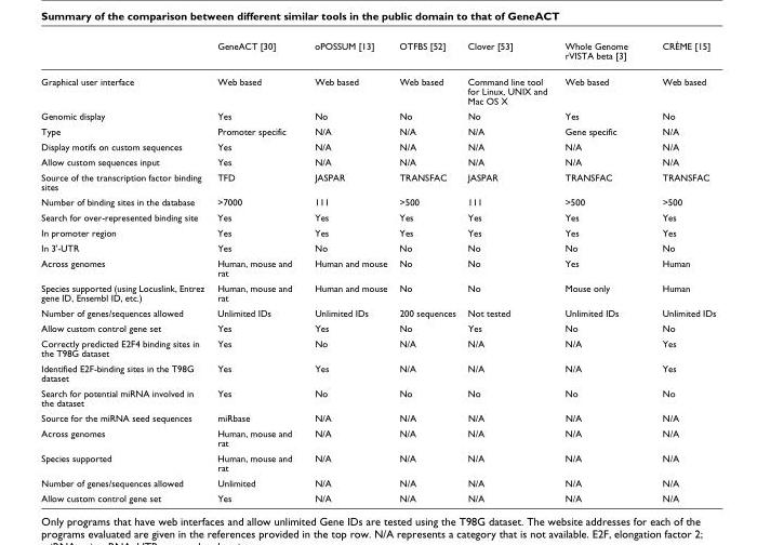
<table><thead><tr><td></td><td>GeneACT [30]</td><td>oPOSSUM [13]</td><td>OTFBS [52]</td><td>Clover [53]</td><td>Whole Genome rVISTA beta [3]</td><td>CRÈME [15]</td></tr></thead><tbody><tr><td>Graphical user interface</td><td>Web based</td><td>Web based</td><td>Web based</td><td>Command line tool for Linux, UNIX and Mac OS X</td><td>Web based</td><td>Web based</td></tr><tr><td>Genomic display</td><td>Yes</td><td>No</td><td>No</td><td>No</td><td>Yes</td><td>No</td></tr><tr><td>Type</td><td>Promoter specific</td><td>N/A</td><td>N/A</td><td>N/A</td><td>Gene specific</td><td>N/A</td></tr><tr><td>Display motifs on custom sequences</td><td>Yes</td><td>N/A</td><td>N/A</td><td>N/A</td><td>N/A</td><td>N/A</td></tr><tr><td>Allow custom sequences input</td><td>Yes</td><td>N/A</td><td>N/A</td><td>N/A</td><td>N/A</td><td>N/A</td></tr><tr><td>Source of the transcription factor binding sites</td><td>TFD</td><td>JASPAR</td><td>TRANSFAC</td><td>JASPAR</td><td>TRANSFAC</td><td>TRANSFAC</td></tr><tr><td>Number of binding sites in the database</td><td>&gt;7000</td><td>111</td><td>&gt;500</td><td>111</td><td>&gt;500</td><td>&gt;500</td></tr><tr><td>Search for over-represented binding site</td><td>Yes</td><td>Yes</td><td>Yes</td><td>Yes</td><td>Yes</td><td>Yes</td></tr><tr><td>In promoter region</td><td>Yes</td><td>Yes</td><td>Yes</td><td>Yes</td><td>Yes</td><td>Yes</td></tr><tr><td>In 3&#x27;-UTR</td><td>Yes</td><td>No</td><td>No</td><td>No</td><td>No</td><td>No</td></tr><tr><td>Across genomes</td><td>Human, mouse and rat</td><td>Human and mouse</td><td>No</td><td>No</td><td>Yes</td><td>Human</td></tr><tr><td>Species supported (using Locuslink, Entrez gene ID, Ensembl ID, etc.)</td><td>Human, mouse and rat</td><td>Human and mouse</td><td>No</td><td>No</td><td>Mouse only</td><td>Human</td></tr><tr><td>Number of genes/sequences allowed</td><td>Unlimited IDs</td><td>Unlimited IDs</td><td>200 sequences</td><td>Not tested</td><td>Unlimited IDs</td><td>Unlimited IDs</td></tr><tr><td>Allow custom control gene set</td><td>Yes</td><td>Yes</td><td>No</td><td>Yes</td><td>No</td><td>No</td></tr><tr><td>Correctly predicted E2F4 binding sites in the T98G dataset</td><td>Yes</td><td>No</td><td>N/A</td><td>N/A</td><td>N/A</td><td>Yes</td></tr><tr><td>Identified E2F-binding sites in the T98G dataset</td><td>Yes</td><td>Yes</td><td>N/A</td><td>N/A</td><td>N/A</td><td>Yes</td></tr><tr><td>Search for potential miRNA involved in the dataset</td><td>Yes</td><td>No</td><td>No</td><td>No</td><td>No</td><td>No</td></tr><tr><td>Source for the miRNA seed sequences</td><td>miRbase</td><td>N/A</td><td>N/A</td><td>N/A</td><td>N/A</td><td>N/A</td></tr><tr><td>Across genomes</td><td>Human, mouse and rat</td><td>N/A</td><td>N/A</td><td>N/A</td><td>N/A</td><td>N/A</td></tr><tr><td>Species supported</td><td>Human, mouse and rat</td><td>N/A</td><td>N/A</td><td>N/A</td><td>N/A</td><td>N/A</td></tr><tr><td>Number of genes/sequences allowed</td><td>Unlimited</td><td>N/A</td><td>N/A</td><td>N/A</td><td>N/A</td><td>N/A</td></tr><tr><td>Allow custom control gene set</td><td>Yes</td><td>N/A</td><td>N/A</td><td>N/A</td><td>N/A</td><td>N/A</td></tr></tbody></table>